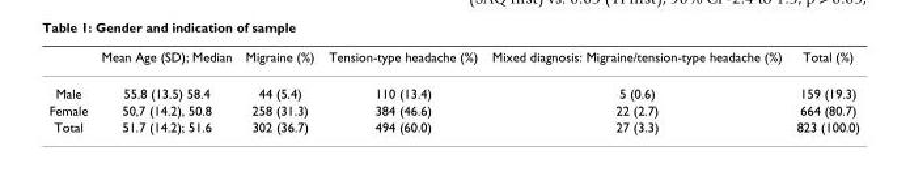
<table><thead><tr><td></td><td>Mean Age (SD); Median</td><td>Migraine (%)</td><td>Tension-type headache (%)</td><td>Mixed diagnosis: Migraine/tension-type headache (%)</td><td>Total (%)</td></tr></thead><tbody><tr><td>Male</td><td>55.8 (13.5) 58.4</td><td>44 (5.4)</td><td>110 (13.4)</td><td>5 (0.6)</td><td>159 (19.3)</td></tr><tr><td>Female</td><td>50,7 (14.2), 50.8</td><td>258 (31.3)</td><td>384 (46.6)</td><td>22 (2.7)</td><td>664 (80.7)</td></tr><tr><td>Total</td><td>51.7 (14.2); 51.6</td><td>302 (36.7)</td><td>494 (60.0)</td><td>27 (3.3)</td><td>823 (100.0)</td></tr></tbody></table>